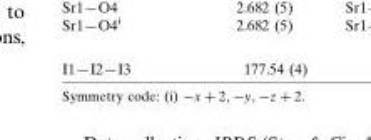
<table><tbody><tr><td>I1—I2—I3</td><td>177.54 (4)</td></tr></tbody></table>